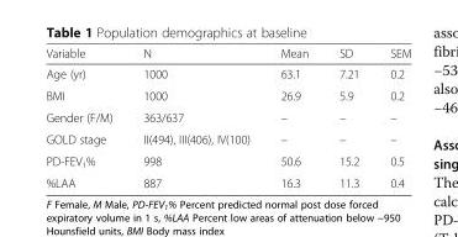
<table><thead><tr><td>Variable</td><td>N</td><td>Mean</td><td>SD</td><td>SEM</td></tr></thead><tbody><tr><td>Age (yr)</td><td>1000</td><td>63.1</td><td>7.21</td><td>0.2</td></tr><tr><td>BMI</td><td>1000</td><td>26.9</td><td>5.9</td><td>0.2</td></tr><tr><td>Gender (F/M)</td><td>363/637</td><td>–</td><td>–</td><td>–</td></tr><tr><td>GOLD stage</td><td>II(494), III(406), IV(100)</td><td>–</td><td>–</td><td>–</td></tr><tr><td>PD-FEV<sub>1</sub>%</td><td>998</td><td>50.6</td><td>15.2</td><td>0.5</td></tr><tr><td>%LAA</td><td>887</td><td>16.3</td><td>11.3</td><td>0.4</td></tr></tbody></table>